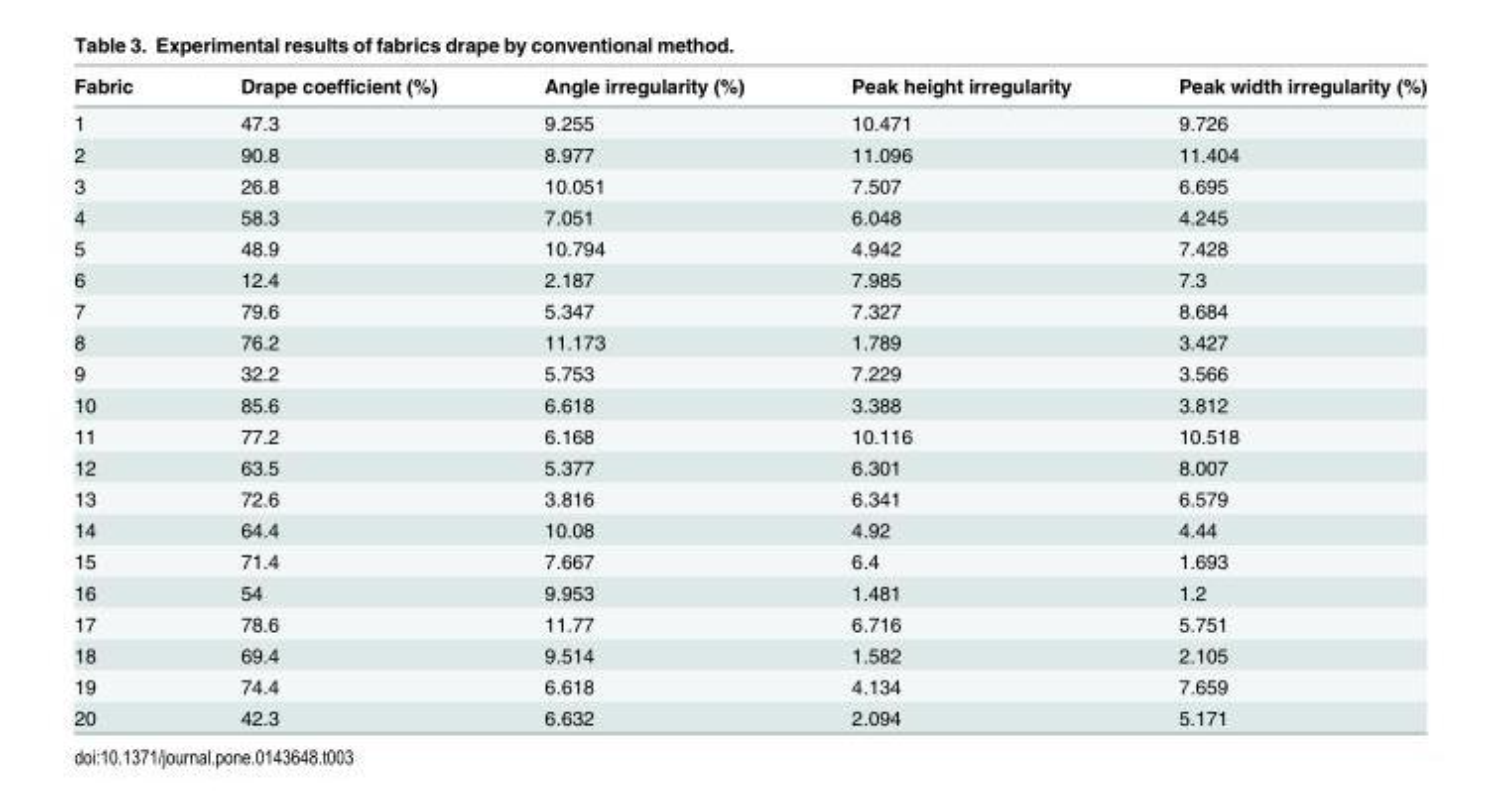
<table><thead><tr><td>Fabric</td><td>Drape coefficient (%)</td><td>Angle irregularity (%)</td><td>Peak height irregularity</td><td>Peak width irregularity (%)</td></tr></thead><tbody><tr><td>1</td><td>47.3</td><td>9.255</td><td>10.471</td><td>9.726</td></tr><tr><td>2</td><td>90.8</td><td>8.977</td><td>11.096</td><td>11.404</td></tr><tr><td>3</td><td>26.8</td><td>10.051</td><td>7.507</td><td>6.695</td></tr><tr><td>4</td><td>58.3</td><td>7.051</td><td>6.048</td><td>4.245</td></tr><tr><td>5</td><td>48.9</td><td>10.794</td><td>4.942</td><td>7.428</td></tr><tr><td>6</td><td>12.4</td><td>2.187</td><td>7.985</td><td>7.3</td></tr><tr><td>7</td><td>79.6</td><td>5.347</td><td>7.327</td><td>8.684</td></tr><tr><td>8</td><td>76.2</td><td>11.173</td><td>1.789</td><td>3.427</td></tr><tr><td>9</td><td>32.2</td><td>5.753</td><td>7.229</td><td>3.566</td></tr><tr><td>10</td><td>85.6</td><td>6.618</td><td>3.388</td><td>3.812</td></tr><tr><td>11</td><td>77.2</td><td>6.168</td><td>10.116</td><td>10.518</td></tr><tr><td>12</td><td>63.5</td><td>5.377</td><td>6.301</td><td>8.007</td></tr><tr><td>13</td><td>72.6</td><td>3.816</td><td>6.341</td><td>6.579</td></tr><tr><td>14</td><td>64.4</td><td>10.08</td><td>4.92</td><td>4.44</td></tr><tr><td>15</td><td>71.4</td><td>7.667</td><td>6.4</td><td>1.693</td></tr><tr><td>16</td><td>54</td><td>9.953</td><td>1.481</td><td>1.2</td></tr><tr><td>17</td><td>78.6</td><td>11.77</td><td>6.716</td><td>5.751</td></tr><tr><td>18</td><td>69.4</td><td>9.514</td><td>1.582</td><td>2.105</td></tr><tr><td>19</td><td>74.4</td><td>6.618</td><td>4.134</td><td>7.659</td></tr><tr><td>20</td><td>42.3</td><td>6.632</td><td>2.094</td><td>5.171</td></tr></tbody></table>